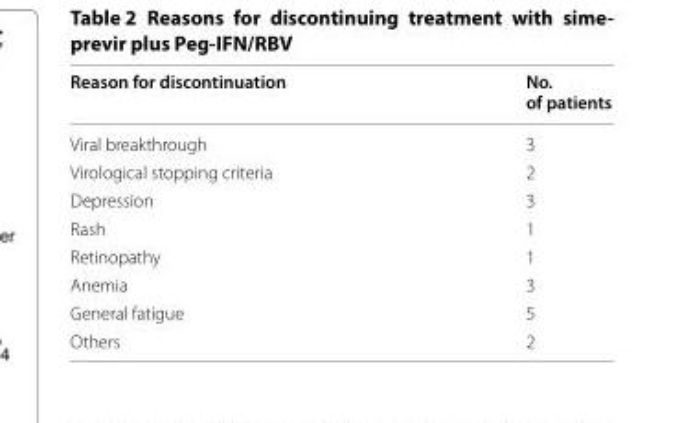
<table><thead><tr><td>Reason for discontinuation</td><td>No. of patients</td></tr></thead><tbody><tr><td>Viral breakthrough</td><td>3</td></tr><tr><td>Virological stopping criteria</td><td>2</td></tr><tr><td>Depression</td><td>3</td></tr><tr><td>Rash</td><td>1</td></tr><tr><td>Retinopathy</td><td>1</td></tr><tr><td>Anemia</td><td>3</td></tr><tr><td>General fatigue</td><td>5</td></tr><tr><td>Others</td><td>2</td></tr></tbody></table>